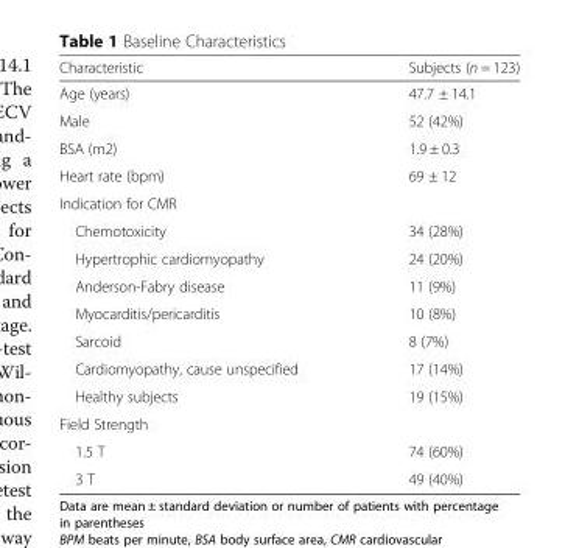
<table><thead><tr><td>Characteristic</td><td>Subjects (n = 123)</td></tr></thead><tbody><tr><td>Age (years)</td><td>47.7 ± 14.1</td></tr><tr><td>Male</td><td>52 (42%)</td></tr><tr><td>BSA (m2)</td><td>1.9 ± 0.3</td></tr><tr><td>Heart rate (bpm)</td><td>69 ± 12</td></tr><tr><td colspan="2">Indication for CMR</td></tr><tr><td>Chemotoxicity</td><td>34 (28%)</td></tr><tr><td>Hypertrophic cardiomyopathy</td><td>24 (20%)</td></tr><tr><td>Anderson-Fabry disease</td><td>11 (9%)</td></tr><tr><td>Myocarditis/pericarditis</td><td>10 (8%)</td></tr><tr><td>Sarcoid</td><td>8 (7%)</td></tr><tr><td>Cardiomyopathy, cause unspecified</td><td>17 (14%)</td></tr><tr><td>Healthy subjects</td><td>19 (15%)</td></tr><tr><td colspan="2">Field Strength</td></tr><tr><td>1.5 T</td><td>74 (60%)</td></tr><tr><td>3 T</td><td>49 (40%)</td></tr></tbody></table>